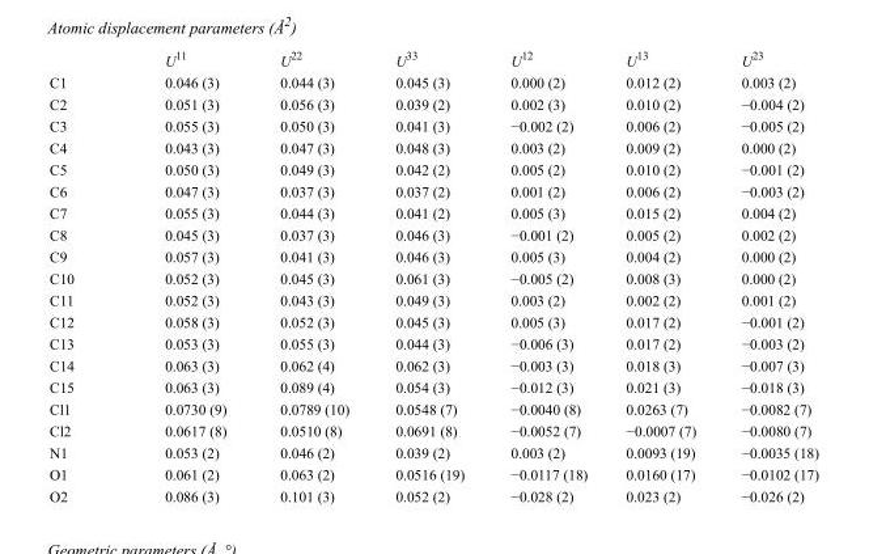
<table><thead><tr><td></td><td>U<sup>11</sup></td><td>U<sup>22</sup></td><td>U<sup>33</sup></td><td>U<sup>12</sup></td><td>U<sup>13</sup></td><td>U<sup>23</sup></td></tr></thead><tbody><tr><td>C1</td><td>0.046 (3)</td><td>0.044 (3)</td><td>0.045 (3)</td><td>0.000 (2)</td><td>0.012 (2)</td><td>0.003 (2)</td></tr><tr><td>C2</td><td>0.051 (3)</td><td>0.056 (3)</td><td>0.039 (2)</td><td>0.002 (3)</td><td>0.010 (2)</td><td>−0.004 (2)</td></tr><tr><td>C3</td><td>0.055 (3)</td><td>0.050 (3)</td><td>0.041 (3)</td><td>−0.002 (2)</td><td>0.006 (2)</td><td>−0.005 (2)</td></tr><tr><td>C4</td><td>0.043 (3)</td><td>0.047 (3)</td><td>0.048 (3)</td><td>0.003 (2)</td><td>0.009 (2)</td><td>0.000 (2)</td></tr><tr><td>C5</td><td>0.050 (3)</td><td>0.049 (3)</td><td>0.042 (2)</td><td>0.005 (2)</td><td>0.010 (2)</td><td>−0.001 (2)</td></tr><tr><td>C6</td><td>0.047 (3)</td><td>0.037 (3)</td><td>0.037 (2)</td><td>0.001 (2)</td><td>0.006 (2)</td><td>−0.003 (2)</td></tr><tr><td>C7</td><td>0.055 (3)</td><td>0.044 (3)</td><td>0.041 (2)</td><td>0.005 (3)</td><td>0.015 (2)</td><td>0.004 (2)</td></tr><tr><td>C8</td><td>0.045 (3)</td><td>0.037 (3)</td><td>0.046 (3)</td><td>−0.001 (2)</td><td>0.005 (2)</td><td>0.002 (2)</td></tr><tr><td>C9</td><td>0.057 (3)</td><td>0.041 (3)</td><td>0.046 (3)</td><td>0.005 (3)</td><td>0.004 (2)</td><td>0.000 (2)</td></tr><tr><td>C10</td><td>0.052 (3)</td><td>0.045 (3)</td><td>0.061 (3)</td><td>−0.005 (2)</td><td>0.008 (3)</td><td>0.000 (2)</td></tr><tr><td>C11</td><td>0.052 (3)</td><td>0.043 (3)</td><td>0.049 (3)</td><td>0.003 (2)</td><td>0.002 (2)</td><td>0.001 (2)</td></tr><tr><td>C12</td><td>0.058 (3)</td><td>0.052 (3)</td><td>0.045 (3)</td><td>0.005 (3)</td><td>0.017 (2)</td><td>−0.001 (2)</td></tr><tr><td>C13</td><td>0.053 (3)</td><td>0.055 (3)</td><td>0.044 (3)</td><td>−0.006 (3)</td><td>0.017 (2)</td><td>−0.003 (2)</td></tr><tr><td>C14</td><td>0.063 (3)</td><td>0.062 (4)</td><td>0.062 (3)</td><td>−0.003 (3)</td><td>0.018 (3)</td><td>−0.007 (3)</td></tr><tr><td>C15</td><td>0.063 (3)</td><td>0.089 (4)</td><td>0.054 (3)</td><td>−0.012 (3)</td><td>0.021 (3)</td><td>−0.018 (3)</td></tr><tr><td>Cl1</td><td>0.0730 (9)</td><td>0.0789 (10)</td><td>0.0548 (7)</td><td>−0.0040 (8)</td><td>0.0263 (7)</td><td>−0.0082 (7)</td></tr><tr><td>Cl2</td><td>0.0617 (8)</td><td>0.0510 (8)</td><td>0.0691 (8)</td><td>−0.0052 (7)</td><td>−0.0007 (7)</td><td>−0.0080 (7)</td></tr><tr><td>N1</td><td>0.053 (2)</td><td>0.046 (2)</td><td>0.039 (2)</td><td>0.003 (2)</td><td>0.0093 (19)</td><td>−0.0035 (18)</td></tr><tr><td>O1</td><td>0.061 (2)</td><td>0.063 (2)</td><td>0.0516 (19)</td><td>−0.0117 (18)</td><td>0.0160 (17)</td><td>−0.0102 (17)</td></tr><tr><td>O2</td><td>0.086 (3)</td><td>0.101 (3)</td><td>0.052 (2)</td><td>−0.028 (2)</td><td>0.023 (2)</td><td>−0.026 (2)</td></tr></tbody></table>